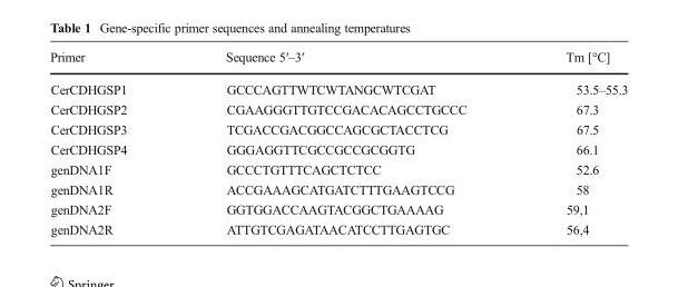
<table><thead><tr><td>Primer</td><td>Sequence 5′–3′</td><td>Tm [°C]</td></tr></thead><tbody><tr><td>CerCDHGSP1</td><td>GCCCAGTTWTCWTANGCWTCGAT</td><td>53.5–55.3</td></tr><tr><td>CerCDHGSP2</td><td>CGAAGGGTTGTCCGACACAGCCTGCCC</td><td>67.3</td></tr><tr><td>CerCDHGSP3</td><td>TCGACCGACGGCCAGCGCTACCTCG</td><td>67.5</td></tr><tr><td>CerCDHGSP4</td><td>GGGAGGTTCGCCGCCGCGGTG</td><td>66.1</td></tr><tr><td>genDNA1F</td><td>GCCCTGTTTCAGCTCTCC</td><td>52.6</td></tr><tr><td>genDNA1R</td><td>ACCGAAAGCATGATCTTTGAAGTCCG</td><td>58</td></tr><tr><td>genDNA2F</td><td>GGTGGACCAAGTACGGCTGAAAAG</td><td>59,1</td></tr><tr><td>genDNA2R</td><td>ATTGTCGAGATAACATCCTTGAGTGC</td><td>56,4</td></tr></tbody></table>